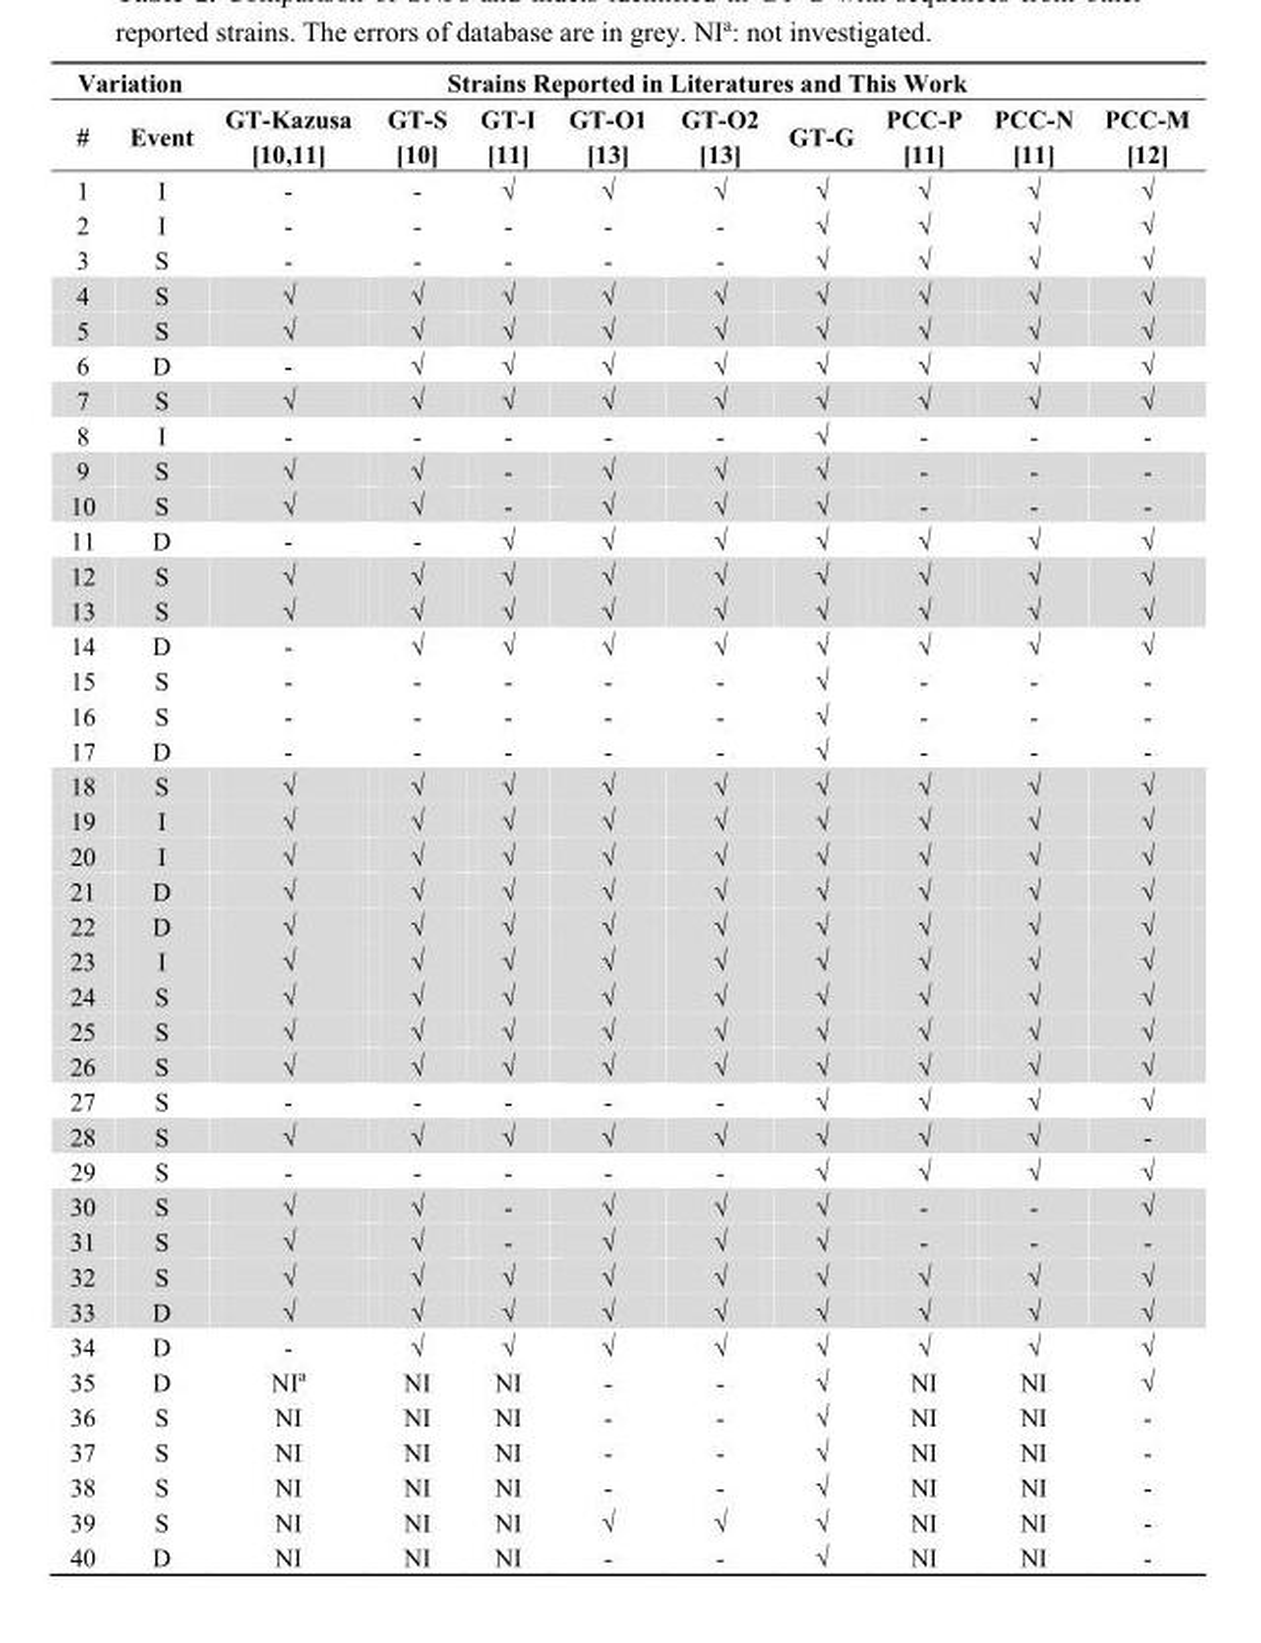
<table><thead><tr><td colspan="2">Variation</td><td colspan="9">Strains Reported in Literatures and This Work</td></tr><tr><td>#</td><td>Event</td><td>GT-Kazusa [10,11]</td><td>GT-S [10]</td><td>GT-I [11]</td><td>GT-O1 [13]</td><td>GT-O2 [13]</td><td>GT-G</td><td>PCC-P [11]</td><td>PCC-N [11]</td><td>PCC-M [12]</td></tr></thead><tbody><tr><td>1</td><td>I</td><td>-</td><td>-</td><td>√</td><td>√</td><td>√</td><td>√</td><td>√</td><td>√</td><td>√</td></tr><tr><td>2</td><td>I</td><td>-</td><td>-</td><td>-</td><td>-</td><td>-</td><td>√</td><td>√</td><td>√</td><td>√</td></tr><tr><td>3</td><td>S</td><td>-</td><td>-</td><td>-</td><td>-</td><td>-</td><td>√</td><td>√</td><td>√</td><td>√</td></tr><tr><td>4</td><td>S</td><td>√</td><td>√</td><td>√</td><td>√</td><td>√</td><td>√</td><td>√</td><td>√</td><td>√</td></tr><tr><td>5</td><td>S</td><td>√</td><td>√</td><td>√</td><td>√</td><td>√</td><td>√</td><td>√</td><td>√</td><td>√</td></tr><tr><td>6</td><td>D</td><td>-</td><td>√</td><td>√</td><td>√</td><td>√</td><td>√</td><td>√</td><td>√</td><td>√</td></tr><tr><td>7</td><td>S</td><td>√</td><td>√</td><td>√</td><td>√</td><td>√</td><td>√</td><td>√</td><td>√</td><td>√</td></tr><tr><td>8</td><td>I</td><td>-</td><td>-</td><td>-</td><td>-</td><td>-</td><td>√</td><td>-</td><td>-</td><td>-</td></tr><tr><td>9</td><td>S</td><td>√</td><td>√</td><td>-</td><td>√</td><td>√</td><td>√</td><td>-</td><td>-</td><td>-</td></tr><tr><td>10</td><td>S</td><td>√</td><td>√</td><td>-</td><td>√</td><td>√</td><td>√</td><td>-</td><td>-</td><td>-</td></tr><tr><td>11</td><td>D</td><td>-</td><td>-</td><td>√</td><td>√</td><td>√</td><td>√</td><td>√</td><td>√</td><td>√</td></tr><tr><td>12</td><td>S</td><td>√</td><td>√</td><td>√</td><td>√</td><td>√</td><td>√</td><td>√</td><td>√</td><td>√</td></tr><tr><td>13</td><td>S</td><td>√</td><td>√</td><td>√</td><td>√</td><td>√</td><td>√</td><td>√</td><td>√</td><td>√</td></tr><tr><td>14</td><td>D</td><td>-</td><td>√</td><td>√</td><td>√</td><td>√</td><td>√</td><td>√</td><td>√</td><td>√</td></tr><tr><td>15</td><td>S</td><td>-</td><td>-</td><td>-</td><td>-</td><td>-</td><td>√</td><td>-</td><td>-</td><td>-</td></tr><tr><td>16</td><td>S</td><td>-</td><td>-</td><td>-</td><td>-</td><td>-</td><td>√</td><td>-</td><td>-</td><td>-</td></tr><tr><td>17</td><td>D</td><td>-</td><td>-</td><td>-</td><td>-</td><td>-</td><td>√</td><td>-</td><td>-</td><td>-</td></tr><tr><td>18</td><td>S</td><td>√</td><td>√</td><td>√</td><td>√</td><td>√</td><td>√</td><td>√</td><td>√</td><td>√</td></tr><tr><td>19</td><td>I</td><td>√</td><td>√</td><td>√</td><td>√</td><td>√</td><td>√</td><td>√</td><td>√</td><td>√</td></tr><tr><td>20</td><td>I</td><td>√</td><td>√</td><td>√</td><td>√</td><td>√</td><td>√</td><td>√</td><td>√</td><td>√</td></tr><tr><td>21</td><td>D</td><td>√</td><td>√</td><td>√</td><td>√</td><td>√</td><td>√</td><td>√</td><td>√</td><td>√</td></tr><tr><td>22</td><td>D</td><td>√</td><td>√</td><td>√</td><td>√</td><td>√</td><td>√</td><td>√</td><td>√</td><td>√</td></tr><tr><td>23</td><td>I</td><td>√</td><td>√</td><td>√</td><td>√</td><td>√</td><td>√</td><td>√</td><td>√</td><td>√</td></tr><tr><td>24</td><td>S</td><td>√</td><td>√</td><td>√</td><td>√</td><td>√</td><td>√</td><td>√</td><td>√</td><td>√</td></tr><tr><td>25</td><td>S</td><td>√</td><td>√</td><td>√</td><td>√</td><td>√</td><td>√</td><td>√</td><td>√</td><td>√</td></tr><tr><td>26</td><td>S</td><td>√</td><td>√</td><td>√</td><td>√</td><td>√</td><td>√</td><td>√</td><td>√</td><td>√</td></tr><tr><td>27</td><td>S</td><td>-</td><td>-</td><td>-</td><td>-</td><td>-</td><td>√</td><td>√</td><td>√</td><td>√</td></tr><tr><td>28</td><td>S</td><td>√</td><td>√</td><td>√</td><td>√</td><td>√</td><td>√</td><td>√</td><td>√</td><td>-</td></tr><tr><td>29</td><td>S</td><td>-</td><td>-</td><td>-</td><td>-</td><td>-</td><td>√</td><td>√</td><td>√</td><td>√</td></tr><tr><td>30</td><td>S</td><td>√</td><td>√</td><td>-</td><td>√</td><td>√</td><td>√</td><td>-</td><td>-</td><td>√</td></tr><tr><td>31</td><td>S</td><td>√</td><td>√</td><td>-</td><td>√</td><td>√</td><td>√</td><td>-</td><td>-</td><td>-</td></tr><tr><td>32</td><td>S</td><td>√</td><td>√</td><td>√</td><td>√</td><td>√</td><td>√</td><td>√</td><td>√</td><td>√</td></tr><tr><td>33</td><td>D</td><td>√</td><td>√</td><td>√</td><td>√</td><td>√</td><td>√</td><td>√</td><td>√</td><td>√</td></tr><tr><td>34</td><td>D</td><td>-</td><td>√</td><td>√</td><td>√</td><td>√</td><td>√</td><td>√</td><td>√</td><td>√</td></tr><tr><td>35</td><td>D</td><td>NI<sup>a</sup></td><td>NI</td><td>NI</td><td>-</td><td>-</td><td>√</td><td>NI</td><td>NI</td><td>√</td></tr><tr><td>36</td><td>S</td><td>NI</td><td>NI</td><td>NI</td><td>-</td><td>-</td><td>√</td><td>NI</td><td>NI</td><td>-</td></tr><tr><td>37</td><td>S</td><td>NI</td><td>NI</td><td>NI</td><td>-</td><td>-</td><td>√</td><td>NI</td><td>NI</td><td>-</td></tr><tr><td>38</td><td>S</td><td>NI</td><td>NI</td><td>NI</td><td>-</td><td>-</td><td>√</td><td>NI</td><td>NI</td><td>-</td></tr><tr><td>39</td><td>S</td><td>NI</td><td>NI</td><td>NI</td><td>√</td><td>√</td><td>√</td><td>NI</td><td>NI</td><td>-</td></tr><tr><td>40</td><td>D</td><td>NI</td><td>NI</td><td>NI</td><td>-</td><td>-</td><td>√</td><td>NI</td><td>NI</td><td>-</td></tr></tbody></table>